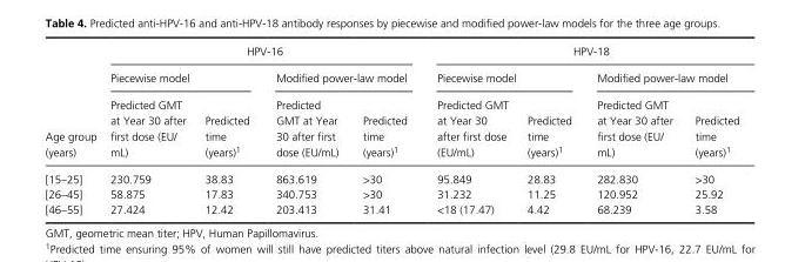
<table><thead><tr><td rowspan="3">Age group (years)</td><td colspan="4">HPV- 16</td><td colspan="4">HPV- 18</td></tr><tr><td colspan="2">Piecewise model</td><td colspan="2">Modified power- law model</td><td colspan="2">Piecewise model</td><td colspan="2">Modified power- law model</td></tr><tr><td>Predicted GMT at Year 30 after first dose (EU/ mL)</td><td>Predicted time (years)1</td><td>Predicted GMT at Year 30 after first dose (EU/mL)</td><td>Predicted time (years)1</td><td>Predicted GMT at Year 30 after first dose (EU/mL)</td><td>Predicted time (years)1</td><td>Predicted GMT at Year 30 after first dose (EU/ mL)</td><td>Predicted time (years)1</td></tr></thead><tbody><tr><td>[15–25]</td><td>230.759</td><td>38.83</td><td>863.619</td><td>&gt;30</td><td>95.849</td><td>28.83</td><td>282.830</td><td>&gt;30</td></tr><tr><td>[26–45]</td><td>58.875</td><td>17.83</td><td>340.753</td><td>&gt;30</td><td>31.232</td><td>11.25</td><td>120.952</td><td>25.92</td></tr><tr><td>[46–55]</td><td>27.424</td><td>12.42</td><td>203.413</td><td>31.41</td><td>&lt;18 (17.47)</td><td>4.42</td><td>68.239</td><td>3.58</td></tr></tbody></table>